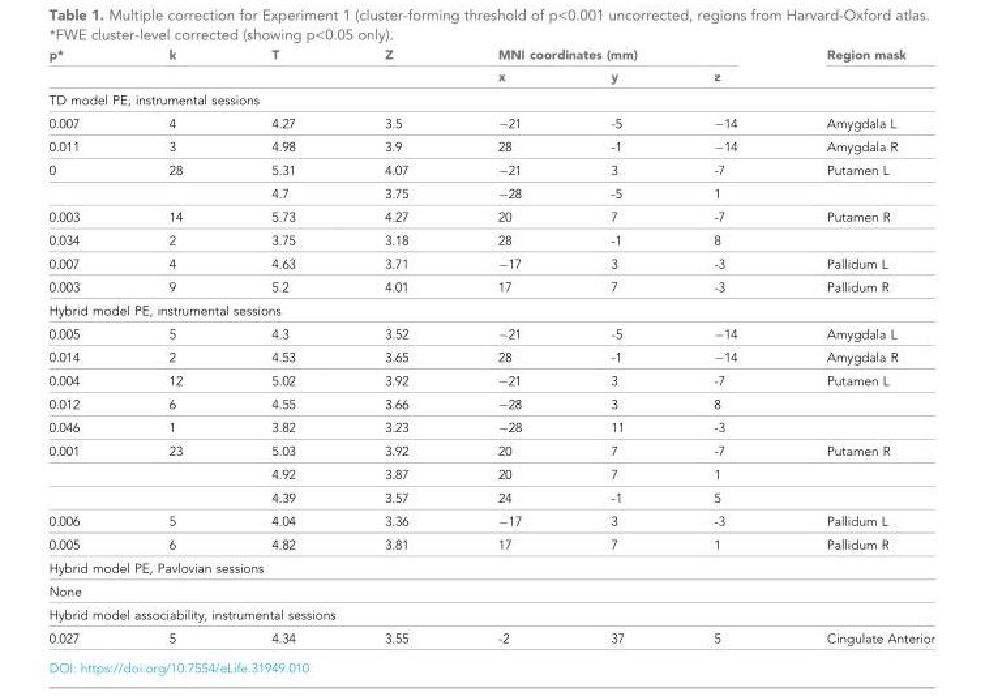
<table><thead><tr><td rowspan="2">p*</td><td rowspan="2">k</td><td rowspan="2">T</td><td rowspan="2">Z</td><td colspan="3">MNI coordinates (mm)</td><td rowspan="2">Region mask</td></tr><tr><td>x</td><td>y</td><td>z</td></tr></thead><tbody><tr><td colspan="8">TD model PE, instrumental sessions</td></tr><tr><td>0.007</td><td>4</td><td>4.27</td><td>3.5</td><td>−21</td><td>-5</td><td>−14</td><td>Amygdala L</td></tr><tr><td>0.011</td><td>3</td><td>4.98</td><td>3.9</td><td>28</td><td>-1</td><td>−14</td><td>Amygdala R</td></tr><tr><td rowspan="2">0</td><td>28</td><td>5.31</td><td>4.07</td><td>−21</td><td>3</td><td>-7</td><td>Putamen L</td></tr><tr><td></td><td>4.7</td><td>3.75</td><td>−28</td><td>-5</td><td>1</td><td></td></tr><tr><td>0.003</td><td>14</td><td>5.73</td><td>4.27</td><td>20</td><td>7</td><td>-7</td><td>Putamen R</td></tr><tr><td>0.034</td><td>2</td><td>3.75</td><td>3.18</td><td>28</td><td>-1</td><td>8</td><td></td></tr><tr><td>0.007</td><td>4</td><td>4.63</td><td>3.71</td><td>−17</td><td>3</td><td>-3</td><td>Pallidum L</td></tr><tr><td>0.003</td><td>9</td><td>5.2</td><td>4.01</td><td>17</td><td>7</td><td>-3</td><td>Pallidum R</td></tr><tr><td colspan="8">Hybrid model PE, instrumental sessions</td></tr><tr><td>0.005</td><td>5</td><td>4.3</td><td>3.52</td><td>−21</td><td>-5</td><td>−14</td><td>Amygdala L</td></tr><tr><td>0.014</td><td>2</td><td>4.53</td><td>3.65</td><td>28</td><td>-1</td><td>−14</td><td>Amygdala R</td></tr><tr><td>0.004</td><td>12</td><td>5.02</td><td>3.92</td><td>−21</td><td>3</td><td>-7</td><td>Putamen L</td></tr><tr><td>0.012</td><td>6</td><td>4.55</td><td>3.66</td><td>−28</td><td>3</td><td>8</td><td></td></tr><tr><td>0.046</td><td>1</td><td>3.82</td><td>3.23</td><td>−28</td><td>11</td><td>-3</td><td></td></tr><tr><td rowspan="3">0.001</td><td>23</td><td>5.03</td><td>3.92</td><td>20</td><td>7</td><td>-7</td><td>Putamen R</td></tr><tr><td></td><td>4.92</td><td>3.87</td><td>20</td><td>7</td><td>1</td><td></td></tr><tr><td></td><td>4.39</td><td>3.57</td><td>24</td><td>-1</td><td>5</td><td></td></tr><tr><td>0.006</td><td>5</td><td>4.04</td><td>3.36</td><td>−17</td><td>3</td><td>-3</td><td>Pallidum L</td></tr><tr><td>0.005</td><td>6</td><td>4.82</td><td>3.81</td><td>17</td><td>7</td><td>1</td><td>Pallidum R</td></tr><tr><td colspan="8">Hybrid model PE, Pavlovian sessions</td></tr><tr><td colspan="8">None</td></tr><tr><td colspan="8">Hybrid model associability, instrumental sessions</td></tr><tr><td>0.027</td><td>5</td><td>4.34</td><td>3.55</td><td>-2</td><td>37</td><td>5</td><td>Cingulate Anterior</td></tr></tbody></table>